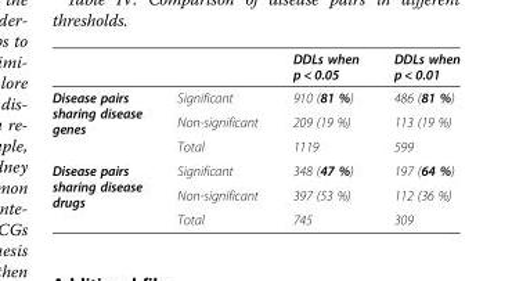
<table><thead><tr><td></td><td></td><td>DDLs when p &lt; 0.05</td><td>DDLs when p &lt; 0.01</td></tr></thead><tbody><tr><td rowspan="3">Disease pairs sharing disease genes</td><td>Significant</td><td>910 (81 %)</td><td>486 (81 %)</td></tr><tr><td>Non-significant</td><td>209 (19 %)</td><td>113 (19 %)</td></tr><tr><td>Total</td><td>1119</td><td>599</td></tr><tr><td rowspan="3">Disease pairs sharing disease drugs</td><td>Significant</td><td>348 (47 %)</td><td>197 (64 %)</td></tr><tr><td>Non-significant</td><td>397 (53 %)</td><td>112 (36 %)</td></tr><tr><td>Total</td><td>745</td><td>309</td></tr></tbody></table>